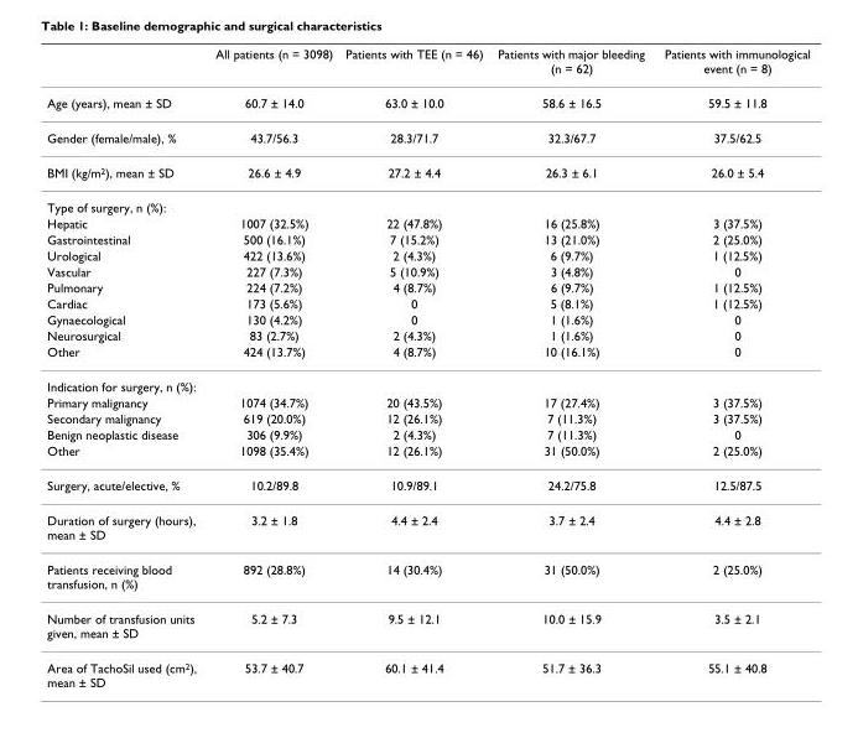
<table><thead><tr><td></td><td>All patients (n = 3098)</td><td>Patients with TEE (n = 46)</td><td>Patients with major bleeding (n = 62)</td><td>Patients with immunological event (n = 8)</td></tr></thead><tbody><tr><td>Age (years), mean ± SD</td><td>60.7 ± 14.0</td><td>63.0 ± 10.0</td><td>58.6 ± 16.5</td><td>59.5 ± 11.8</td></tr><tr><td>Gender (female/male), %</td><td>43.7/56.3</td><td>28.3/71.7</td><td>32.3/67.7</td><td>37.5/62.5</td></tr><tr><td>BMI (kg/m<sup>2</sup>), mean ± SD</td><td>26.6 ± 4.9</td><td>27.2 ± 4.4</td><td>26.3 ± 6.1</td><td>26.0 ± 5.4</td></tr><tr><td colspan="5">Type of surgery, n (%):</td></tr><tr><td>Hepatic</td><td>1007 (32.5%)</td><td>22 (47.8%)</td><td>16 (25.8%)</td><td>3 (37.5%)</td></tr><tr><td>Gastrointestinal</td><td>500 (16.1%)</td><td>7 (15.2%)</td><td>13 (21.0%)</td><td>2 (25.0%)</td></tr><tr><td>Urological</td><td>422 (13.6%)</td><td>2 (4.3%)</td><td>6 (9.7%)</td><td>1 (12.5%)</td></tr><tr><td>Vascular</td><td>227 (7.3%)</td><td>5 (10.9%)</td><td>3 (4.8%)</td><td>0</td></tr><tr><td>Pulmonary</td><td>224 (7.2%)</td><td>4 (8.7%)</td><td>6 (9.7%)</td><td>1 (12.5%)</td></tr><tr><td>Cardiac</td><td>173 (5.6%)</td><td>0</td><td>5 (8.1%)</td><td>1 (12.5%)</td></tr><tr><td>Gynaecological</td><td>130 (4.2%)</td><td>0</td><td>1 (1.6%)</td><td>0</td></tr><tr><td>Neurosurgical</td><td>83 (2.7%)</td><td>2 (4.3%)</td><td>1 (1.6%)</td><td>0</td></tr><tr><td>Other</td><td>424 (13.7%)</td><td>4 (8.7%)</td><td>10 (16.1%)</td><td>0</td></tr><tr><td colspan="5">Indication for surgery, n (%):</td></tr><tr><td>Primary malignancy</td><td>1074 (34.7%)</td><td>20 (43.5%)</td><td>17 (27.4%)</td><td>3 (37.5%)</td></tr><tr><td>Secondary malignancy</td><td>619 (20.0%)</td><td>12 (26.1%)</td><td>7 (11.3%)</td><td>3 (37.5%)</td></tr><tr><td>Benign neoplastic disease</td><td>306 (9.9%)</td><td>2 (4.3%)</td><td>7 (11.3%)</td><td>0</td></tr><tr><td>Other</td><td>1098 (35.4%)</td><td>12 (26.1%)</td><td>31 (50.0%)</td><td>2 (25.0%)</td></tr><tr><td>Surgery, acute/elective, %</td><td>10.2/89.8</td><td>10.9/89.1</td><td>24.2/75.8</td><td>12.5/87.5</td></tr><tr><td>Duration of surgery (hours), mean ± SD</td><td>3.2 ± 1.8</td><td>4.4 ± 2.4</td><td>3.7 ± 2.4</td><td>4.4 ± 2.8</td></tr><tr><td>Patients receiving blood transfusion, n (%)</td><td>892 (28.8%)</td><td>14 (30.4%)</td><td>31 (50.0%)</td><td>2 (25.0%)</td></tr><tr><td>Number of transfusion units given, mean ± SD</td><td>5.2 ± 7.3</td><td>9.5 ± 12.1</td><td>10.0 ± 15.9</td><td>3.5 ± 2.1</td></tr><tr><td>Area of TachoSil used (cm<sup>2</sup>), mean ± SD</td><td>53.7 ± 40.7</td><td>60.1 ± 41.4</td><td>51.7 ± 36.3</td><td>55.1 ± 40.8</td></tr></tbody></table>